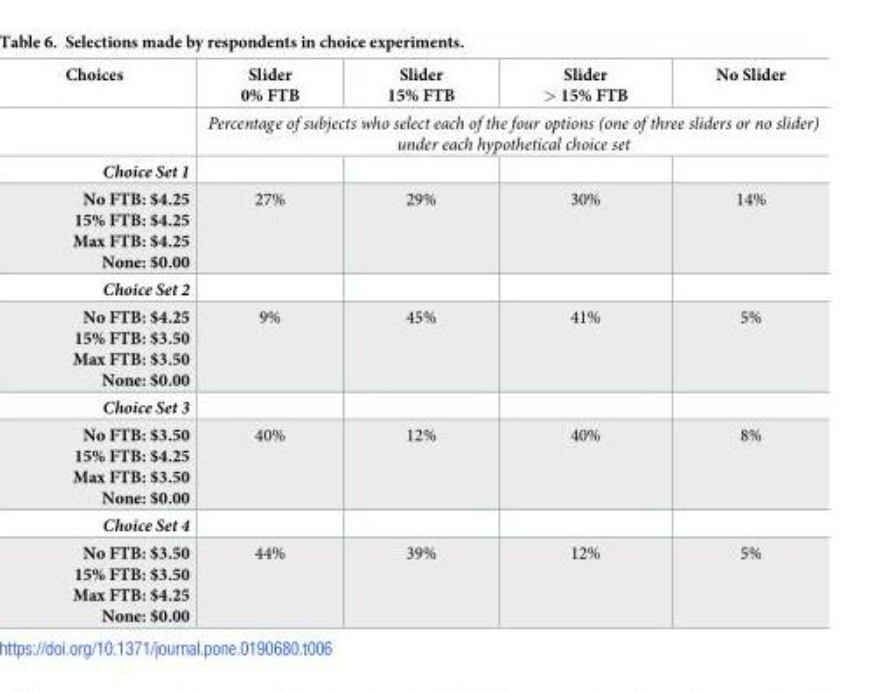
<table><thead><tr><td>Choices</td><td>Slider 0% FTB</td><td>Slider 15% FTB</td><td>Slider &gt; 15% FTB</td><td>No Slider</td></tr></thead><tbody><tr><td></td><td colspan="4">Percentage of subjects who select each of the four options (one of three sliders or no slider) under each hypothetical choice set</td></tr><tr><td colspan="5">Choice Set 1</td></tr><tr><td>No FTB: $4.25 15% FTB: $4.25 Max FTB: $4.25 None: $0.00</td><td>27%</td><td>29%</td><td>30%</td><td>14%</td></tr><tr><td colspan="5">Choice Set 2</td></tr><tr><td>No FTB: $4.25 15% FTB: $3.50 Max FTB: $3.50 None: $0.00</td><td>9%</td><td>45%</td><td>41%</td><td>5%</td></tr><tr><td colspan="5">Choice Set 3</td></tr><tr><td>No FTB: $3.50 15% FTB: $4.25 Max FTB: $3.50 None: $0.00</td><td>40%</td><td>12%</td><td>40%</td><td>8%</td></tr><tr><td colspan="5">Choice Set 4</td></tr><tr><td>No FTB: $3.50 15% FTB: $3.50 Max FTB: $4.25 None: $0.00</td><td>44%</td><td>39%</td><td>12%</td><td>5%</td></tr></tbody></table>